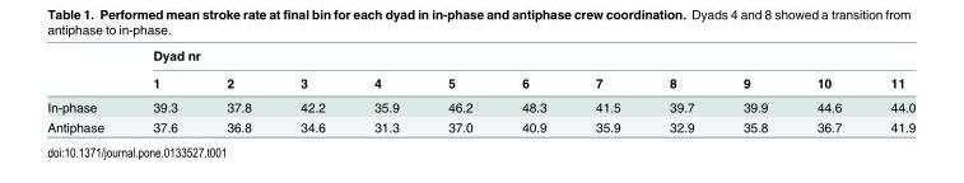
<table><thead><tr><td rowspan="2"></td><td colspan="11">Dyad nr</td></tr><tr><td>1</td><td>2</td><td>3</td><td>4</td><td>5</td><td>6</td><td>7</td><td>8</td><td>9</td><td>10</td><td>11</td></tr></thead><tbody><tr><td>In-phase</td><td>39.3</td><td>37.8</td><td>42.2</td><td>35.9</td><td>46.2</td><td>48.3</td><td>41.5</td><td>39.7</td><td>39.9</td><td>44.6</td><td>44.0</td></tr><tr><td>Antiphase</td><td>37.6</td><td>36.8</td><td>34.6</td><td>31.3</td><td>37.0</td><td>40.9</td><td>35.9</td><td>32.9</td><td>35.8</td><td>36.7</td><td>41.9</td></tr></tbody></table>